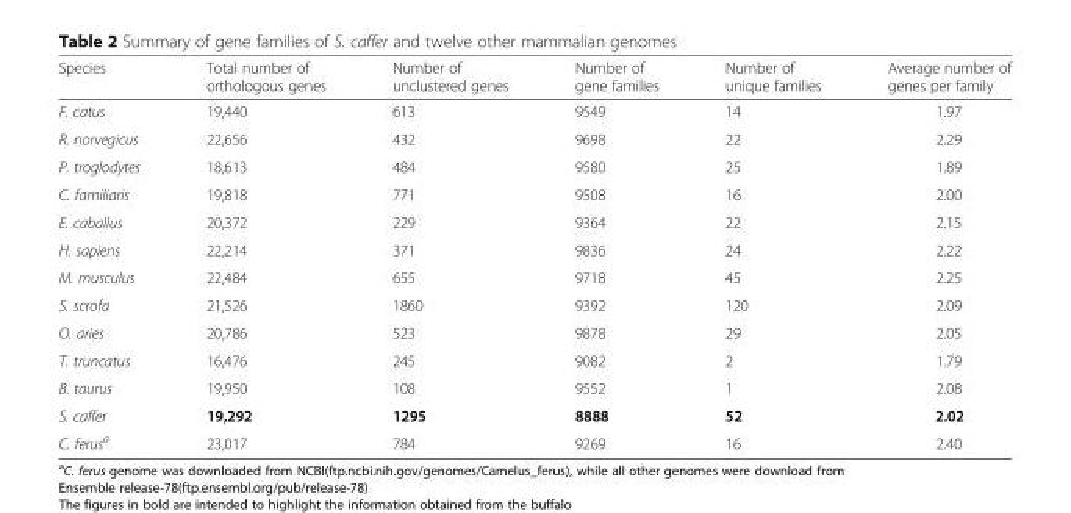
<table><thead><tr><td>Species</td><td>Total number of orthologous genes</td><td>Number of unclustered genes</td><td>Number of gene families</td><td>Number of unique families</td><td>Average number of genes per family</td></tr></thead><tbody><tr><td>F. catus</td><td>19,440</td><td>613</td><td>9549</td><td>14</td><td>1.97</td></tr><tr><td>R. norvegicus</td><td>22,656</td><td>432</td><td>9698</td><td>22</td><td>2.29</td></tr><tr><td>P. troglodytes</td><td>18,613</td><td>484</td><td>9580</td><td>25</td><td>1.89</td></tr><tr><td>C. familiaris</td><td>19,818</td><td>771</td><td>9508</td><td>16</td><td>2.00</td></tr><tr><td>E. caballus</td><td>20,372</td><td>229</td><td>9364</td><td>22</td><td>2.15</td></tr><tr><td>H. sapiens</td><td>22,214</td><td>371</td><td>9836</td><td>24</td><td>2.22</td></tr><tr><td>M. musculus</td><td>22,484</td><td>655</td><td>9718</td><td>45</td><td>2.25</td></tr><tr><td>S. scrofa</td><td>21,526</td><td>1860</td><td>9392</td><td>120</td><td>2.09</td></tr><tr><td>O. aries</td><td>20,786</td><td>523</td><td>9878</td><td>29</td><td>2.05</td></tr><tr><td>T. truncatus</td><td>16,476</td><td>245</td><td>9082</td><td>2</td><td>1.79</td></tr><tr><td>B. taurus</td><td>19,950</td><td>108</td><td>9552</td><td>1</td><td>2.08</td></tr><tr><td>S. caffer</td><td>19,292</td><td>1295</td><td>8888</td><td>52</td><td>2.02</td></tr><tr><td>C. ferus<sup>a</sup></td><td>23,017</td><td>784</td><td>9269</td><td>16</td><td>2.40</td></tr></tbody></table>